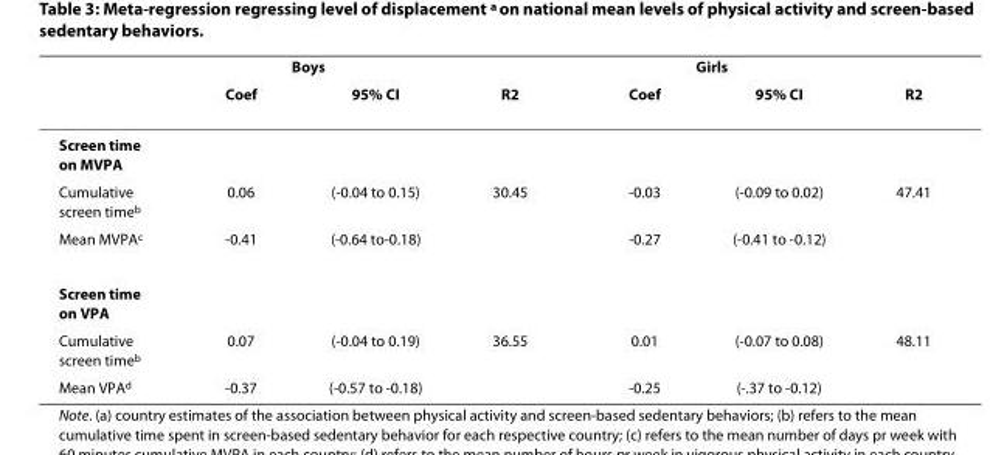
<table><thead><tr><td rowspan="2"></td><td colspan="2">Boys</td><td rowspan="2">R2</td><td colspan="2">Girls</td><td rowspan="2">R2</td></tr><tr><td>Coef</td><td>95% CI</td><td>Coef</td><td>95% CI</td></tr></thead><tbody><tr><td colspan="7">Screen time on MVPA</td></tr><tr><td>Cumulative screen time<sup>b</sup></td><td>0.06</td><td>(-0.04 to 0.15)</td><td>30.45</td><td>-0.03</td><td>(-0.09 to 0.02)</td><td>47.41</td></tr><tr><td>Mean MVPA<sup>c</sup></td><td>-0.41</td><td>(-0.64 to-0.18)</td><td></td><td>-0.27</td><td>(-0.41 to -0.12)</td><td></td></tr><tr><td colspan="7">Screen time on VPA</td></tr><tr><td>Cumulative screen time<sup>b</sup></td><td>0.07</td><td>(-0.04 to 0.19)</td><td>36.55</td><td>0.01</td><td>(-0.07 to 0.08)</td><td>48.11</td></tr><tr><td>Mean VPA<sup>d</sup></td><td>-0.37</td><td>(-0.57 to -0.18)</td><td></td><td>-0.25</td><td>(-.37 to -0.12)</td><td></td></tr></tbody></table>